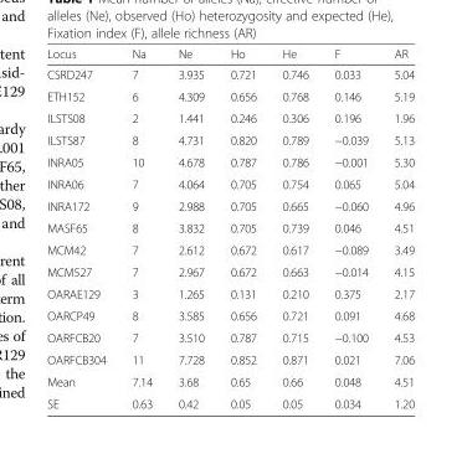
<table><thead><tr><td>Locus</td><td>Na</td><td>Ne</td><td>Ho</td><td>He</td><td>F</td><td>AR</td></tr></thead><tbody><tr><td>CSRD247</td><td>7</td><td>3.935</td><td>0.721</td><td>0.746</td><td>0.033</td><td>5.04</td></tr><tr><td>ETH152</td><td>6</td><td>4.309</td><td>0.656</td><td>0.768</td><td>0.146</td><td>5.19</td></tr><tr><td>ILSTS08</td><td>2</td><td>1.441</td><td>0.246</td><td>0.306</td><td>0.196</td><td>1.96</td></tr><tr><td>ILSTS87</td><td>8</td><td>4.731</td><td>0.820</td><td>0.789</td><td>−0.039</td><td>5.13</td></tr><tr><td>INRA05</td><td>10</td><td>4.678</td><td>0.787</td><td>0.786</td><td>−0.001</td><td>5.30</td></tr><tr><td>INRA06</td><td>7</td><td>4.064</td><td>0.705</td><td>0.754</td><td>0.065</td><td>5.04</td></tr><tr><td>INRA172</td><td>9</td><td>2.988</td><td>0.705</td><td>0.665</td><td>−0.060</td><td>4.96</td></tr><tr><td>MASF65</td><td>8</td><td>3.832</td><td>0.705</td><td>0.739</td><td>0.046</td><td>4.51</td></tr><tr><td>MCM42</td><td>7</td><td>2.612</td><td>0.672</td><td>0.617</td><td>−0.089</td><td>3.49</td></tr><tr><td>MCM527</td><td>7</td><td>2.967</td><td>0.672</td><td>0.663</td><td>−0.014</td><td>4.15</td></tr><tr><td>OARAE129</td><td>3</td><td>1.265</td><td>0.131</td><td>0.210</td><td>0.375</td><td>2.17</td></tr><tr><td>OARCP49</td><td>8</td><td>3.585</td><td>0.656</td><td>0.721</td><td>0.091</td><td>4.68</td></tr><tr><td>OARFCB20</td><td>7</td><td>3.510</td><td>0.787</td><td>0.715</td><td>−0.100</td><td>4.53</td></tr><tr><td>OARFCB304</td><td>11</td><td>7.728</td><td>0.852</td><td>0.871</td><td>0.021</td><td>7.06</td></tr><tr><td>Mean</td><td>7.14</td><td>3.68</td><td>0.65</td><td>0.66</td><td>0.048</td><td>4.51</td></tr><tr><td>SE</td><td>0.63</td><td>0.42</td><td>0.05</td><td>0.05</td><td>0.034</td><td>1.20</td></tr></tbody></table>